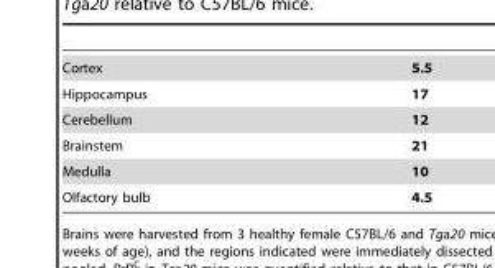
<table><tbody><tr><td>Cortex</td><td>5.5</td></tr><tr><td>Hippocampus</td><td>17</td></tr><tr><td>Cerebellum</td><td>12</td></tr><tr><td>Brainstem</td><td>21</td></tr><tr><td>Medulla</td><td>10</td></tr><tr><td>Olfactory bulb</td><td>4.5</td></tr></tbody></table>